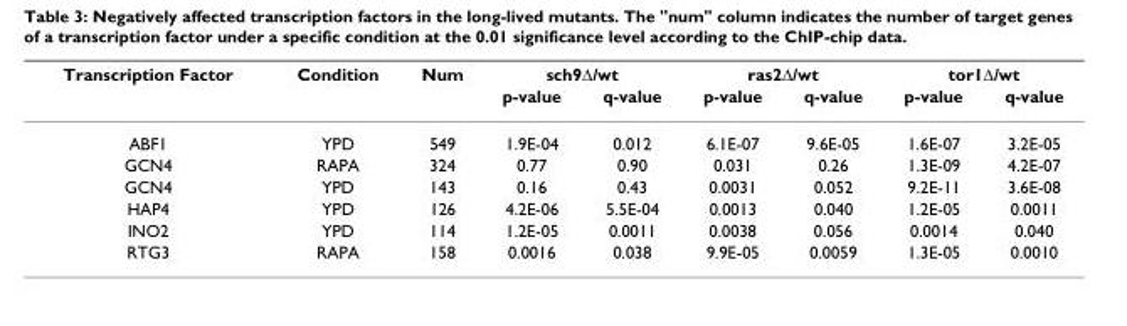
<table><thead><tr><td rowspan="2">Transcription Factor</td><td rowspan="2">Condition</td><td rowspan="2">Num</td><td colspan="2">sch9∆/wt</td><td colspan="2">ras2∆/wt</td><td colspan="2">tor1∆/wt</td></tr><tr><td>p-value</td><td>q-value</td><td>p-value</td><td>q-value</td><td>p-value</td><td>q-value</td></tr></thead><tbody><tr><td>ABF1</td><td>YPD</td><td>549</td><td>1.9E-04</td><td>0.012</td><td>6.1E-07</td><td>9.6E-05</td><td>1.6E-07</td><td>3.2E-05</td></tr><tr><td>GCN4</td><td>RAPA</td><td>324</td><td>0.77</td><td>0.90</td><td>0.031</td><td>0.26</td><td>1.3E-09</td><td>4.2E-07</td></tr><tr><td>GCN4</td><td>YPD</td><td>143</td><td>0.16</td><td>0.43</td><td>0.0031</td><td>0.052</td><td>9.2E-11</td><td>3.6E-08</td></tr><tr><td>HAP4</td><td>YPD</td><td>126</td><td>4.2E-06</td><td>5.5E-04</td><td>0.0013</td><td>0.040</td><td>1.2E-05</td><td>0.0011</td></tr><tr><td>INO2</td><td>YPD</td><td>114</td><td>1.2E-05</td><td>0.0011</td><td>0.0038</td><td>0.056</td><td>0.0014</td><td>0.040</td></tr><tr><td>RTG3</td><td>RAPA</td><td>158</td><td>0.0016</td><td>0.038</td><td>9.9E-05</td><td>0.0059</td><td>1.3E-05</td><td>0.0010</td></tr></tbody></table>